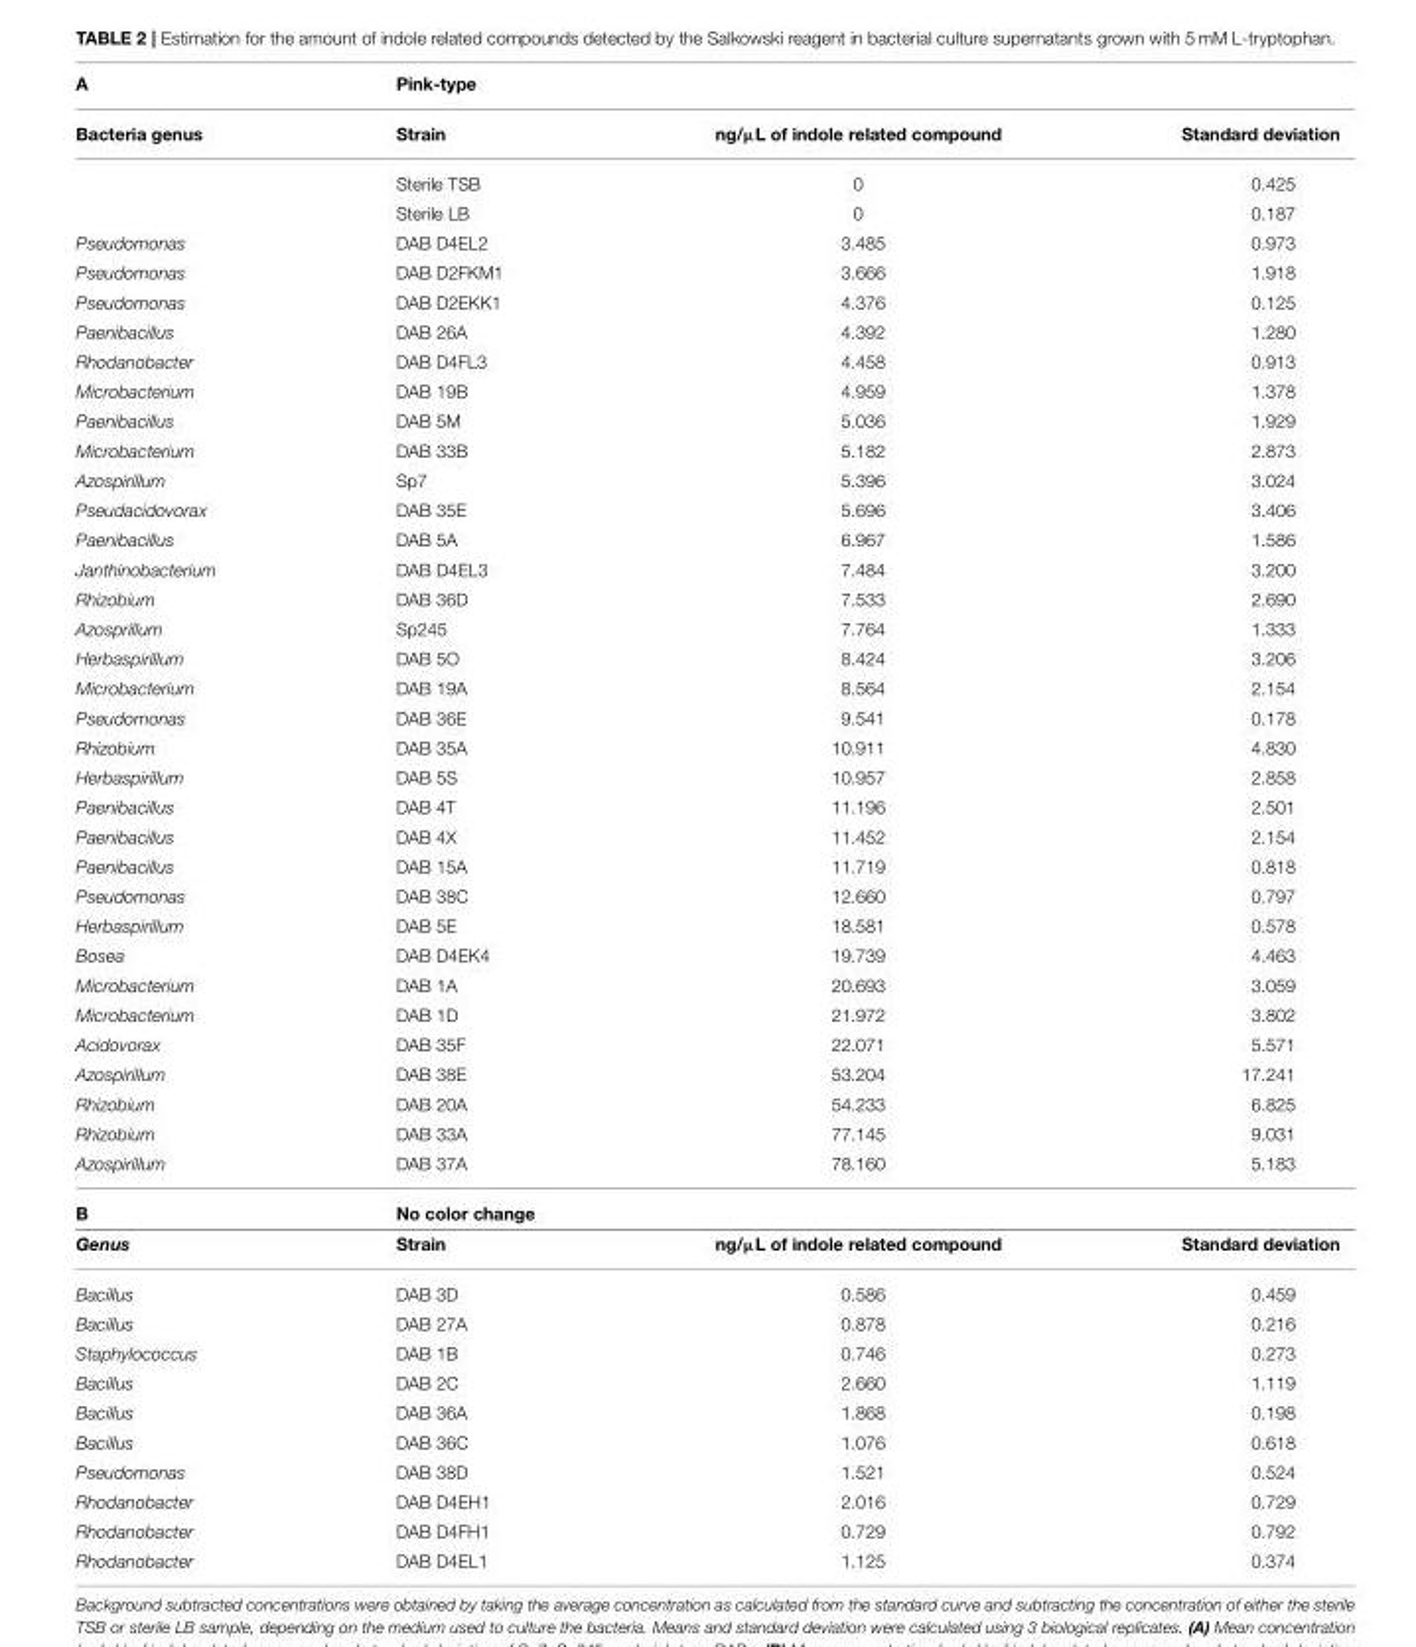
<table><thead><tr><td>A</td><td>Pink-type</td><td></td><td></td></tr></thead><tbody><tr><td rowspan="3">Bacteria genus</td><td>Strain</td><td>ng/µL of indole related compound</td><td>Standard deviation</td></tr><tr><td>Sterile TSB</td><td>0</td><td>0.425</td></tr><tr><td>Sterile LB</td><td>0</td><td>0.187</td></tr><tr><td>Pseudomonas</td><td>DAB D4EL2</td><td>3.485</td><td>0.973</td></tr><tr><td>Pseudomonas</td><td>DAB D2FKM1</td><td>3.666</td><td>1.918</td></tr><tr><td>Pseudomonas</td><td>DAB D2EKK1</td><td>4.376</td><td>0.125</td></tr><tr><td>Paenibacillus</td><td>DAB 26A</td><td>4.392</td><td>1.280</td></tr><tr><td>Rhodanobacter</td><td>DAB D4FL3</td><td>4.458</td><td>0.913</td></tr><tr><td>Microbacterium</td><td>DAB 19B</td><td>4.959</td><td>1.378</td></tr><tr><td>Paenibacillus</td><td>DAB 5M</td><td>5.036</td><td>1.929</td></tr><tr><td>Microbacterium</td><td>DAB 33B</td><td>5.182</td><td>2.873</td></tr><tr><td>Azospirillum</td><td>Sp7</td><td>5.396</td><td>3.024</td></tr><tr><td>Pseudacidovorax</td><td>DAB 35E</td><td>5.696</td><td>3.406</td></tr><tr><td>Paenibacillus</td><td>DAB 5A</td><td>6.967</td><td>1.586</td></tr><tr><td>Janthinobacterium</td><td>DAB D4EL3</td><td>7.484</td><td>3.200</td></tr><tr><td>Rhizobium</td><td>DAB 36D</td><td>7.533</td><td>2.690</td></tr><tr><td>Azosprillum</td><td>Sp245</td><td>7.764</td><td>1.333</td></tr><tr><td>Herbaspirillum</td><td>DAB 5O</td><td>8.424</td><td>3.206</td></tr><tr><td>Microbacterium</td><td>DAB 19A</td><td>8.564</td><td>2.154</td></tr><tr><td>Pseudomonas</td><td>DAB 36E</td><td>9.541</td><td>0.178</td></tr><tr><td>Rhizobium</td><td>DAB 35A</td><td>10.911</td><td>4.830</td></tr><tr><td>Herbaspirillum</td><td>DAB 5S</td><td>10.957</td><td>2.858</td></tr><tr><td>Paenibacillus</td><td>DAB 4T</td><td>11.196</td><td>2.501</td></tr><tr><td>Paenibacillus</td><td>DAB 4X</td><td>11.452</td><td>2.154</td></tr><tr><td>Paenibacillus</td><td>DAB 15A</td><td>11.719</td><td>0.818</td></tr><tr><td>Pseudomonas</td><td>DAB 38C</td><td>12.660</td><td>0.797</td></tr><tr><td>Herbaspirillum</td><td>DAB 5E</td><td>18.581</td><td>0.578</td></tr><tr><td>Bosea</td><td>DAB D4EK4</td><td>19.739</td><td>4.463</td></tr><tr><td>Microbacterium</td><td>DAB 1A</td><td>20.693</td><td>3.059</td></tr><tr><td>Microbacterium</td><td>DAB 1D</td><td>21.972</td><td>3.802</td></tr><tr><td>Acidovorax</td><td>DAB 35F</td><td>22.071</td><td>5.571</td></tr><tr><td>Azospirillum</td><td>DAB 38E</td><td>53.204</td><td>17.241</td></tr><tr><td>Rhizobium</td><td>DAB 20A</td><td>54.233</td><td>6.825</td></tr><tr><td>Rhizobium</td><td>DAB 33A</td><td>77.145</td><td>9.031</td></tr><tr><td>Azospirillum</td><td>DAB 37A</td><td>78.160</td><td>5.183</td></tr><tr><td>B</td><td>No color change</td><td></td><td></td></tr><tr><td>Genus</td><td>Strain</td><td>ng/µL of indole related compound</td><td>Standard deviation</td></tr><tr><td>Bacillus</td><td>DAB 3D</td><td>0.586</td><td>0.459</td></tr><tr><td>Bacillus</td><td>DAB 27A</td><td>0.878</td><td>0.216</td></tr><tr><td>Staphylococcus</td><td>DAB 1B</td><td>0.746</td><td>0.273</td></tr><tr><td>Bacillus</td><td>DAB 2C</td><td>2.660</td><td>1.119</td></tr><tr><td>Bacillus</td><td>DAB 36A</td><td>1.868</td><td>0.198</td></tr><tr><td>Bacillus</td><td>DAB 36C</td><td>1.076</td><td>0.618</td></tr><tr><td>Pseudomonas</td><td>DAB 38D</td><td>1.521</td><td>0.524</td></tr><tr><td>Rhodanobacter</td><td>DAB D4EH1</td><td>2.016</td><td>0.729</td></tr><tr><td>Rhodanobacter</td><td>DAB D4FH1</td><td>0.729</td><td>0.792</td></tr><tr><td>Rhodanobacter</td><td>DAB D4EL1</td><td>1.125</td><td>0.374</td></tr></tbody></table>